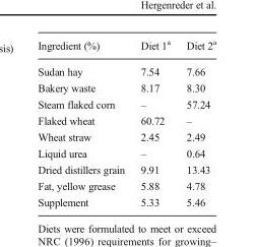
<table><thead><tr><td>Ingredient (%)</td><td>Diet 1<sup>a</sup></td><td>Diet 2<sup>a</sup></td></tr></thead><tbody><tr><td>Sudan hay</td><td>7.54</td><td>7.66</td></tr><tr><td>Bakery waste</td><td>8.17</td><td>8.30</td></tr><tr><td>Steam flaked corn</td><td>–</td><td>57.24</td></tr><tr><td>Flaked wheat</td><td>60.72</td><td>–</td></tr><tr><td>Wheat straw</td><td>2.45</td><td>2.49</td></tr><tr><td>Liquid urea</td><td>–</td><td>0.64</td></tr><tr><td>Dried distillers grain</td><td>9.91</td><td>13.43</td></tr><tr><td>Fat, yellow grease</td><td>5.88</td><td>4.78</td></tr><tr><td>Supplement</td><td>5.33</td><td>5.46</td></tr></tbody></table>